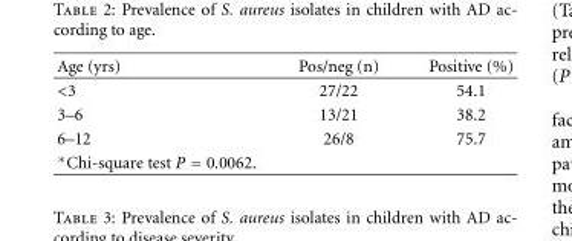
<table><thead><tr><td>Age (yrs)</td><td>Pos/neg (n)</td><td>Positive (%)</td></tr></thead><tbody><tr><td>&lt;3</td><td>27/22</td><td>54.1</td></tr><tr><td>3–6</td><td>13/21</td><td>38.2</td></tr><tr><td>6–12</td><td>26/8</td><td>75.7</td></tr><tr><td>∗Chi-square test P = 0.0062.</td><td></td><td></td></tr></tbody></table>